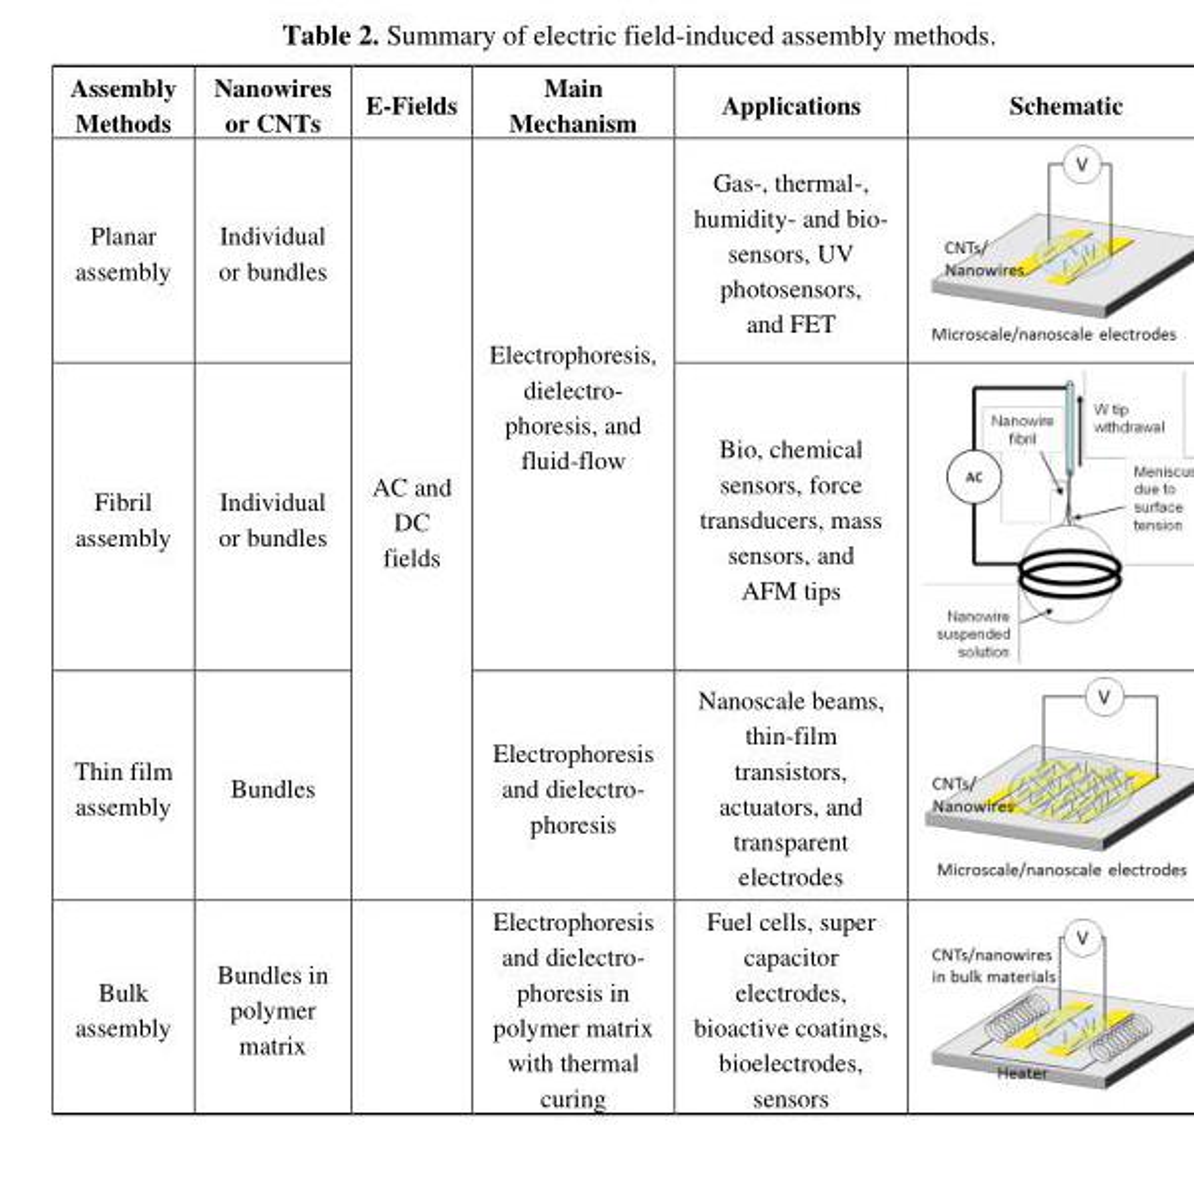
<table><thead><tr><td>Assembly Methods</td><td>Nanowires or CNTs</td><td>E-Fields</td><td>Main Mechanism</td><td>Applications</td><td>Schematic</td></tr></thead><tbody><tr><td>Planar assembly</td><td>Individual or bundles</td><td rowspan="3">AC and DC fields</td><td rowspan="2">Electrophoresis, dielectro- phoresis, and fluid-flow</td><td>Gas-, thermal-, humidity- and bio- sensors, UV photosensors, and FET</td><td></td></tr><tr><td>Fibril assembly</td><td>Individual or bundles</td><td>Bio, chemical sensors, force transducers, mass sensors, and AFM tips</td><td></td></tr><tr><td>Thin film assembly</td><td>Bundles</td><td>Electrophoresis and dielectro- phoresis</td><td>Nanoscale beams, thin-film transistors, actuators, and transparent electrodes</td><td></td></tr><tr><td>Bulk assembly</td><td>Bundles in polymer matrix</td><td></td><td>Electrophoresis and dielectro- phoresis in polymer matrix with thermal curing</td><td>Fuel cells, super capacitor electrodes, bioactive coatings, bioelectrodes, sensors</td><td></td></tr></tbody></table>